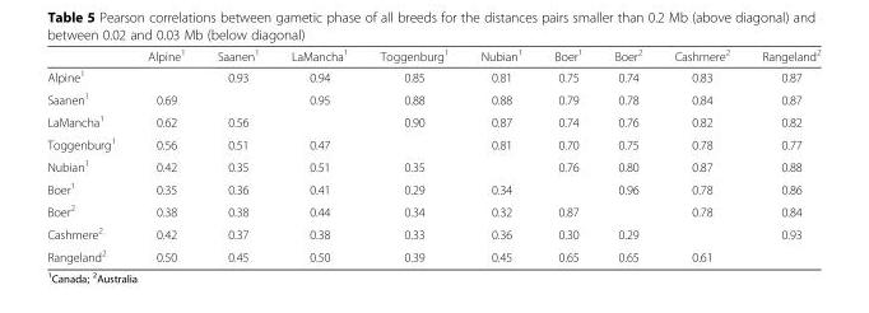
<table><thead><tr><td></td><td>Alpine<sup>1</sup></td><td>Saanen<sup>1</sup></td><td>LaMancha<sup>1</sup></td><td>Toggenburg<sup>1</sup></td><td>Nubian<sup>1</sup></td><td>Boer<sup>1</sup></td><td>Boer<sup>2</sup></td><td>Cashmere<sup>2</sup></td><td>Rangeland<sup>2</sup></td></tr></thead><tbody><tr><td>Alpine<sup>1</sup></td><td></td><td>0.93</td><td>0.94</td><td>0.85</td><td>0.81</td><td>0.75</td><td>0.74</td><td>0.83</td><td>0.87</td></tr><tr><td>Saanen<sup>1</sup></td><td>0.69</td><td></td><td>0.95</td><td>0.88</td><td>0.88</td><td>0.79</td><td>0.78</td><td>0.84</td><td>0.87</td></tr><tr><td>LaMancha<sup>1</sup></td><td>0.62</td><td>0.56</td><td></td><td>0.90</td><td>0.87</td><td>0.74</td><td>0.76</td><td>0.82</td><td>0.82</td></tr><tr><td>Toggenburg<sup>1</sup></td><td>0.56</td><td>0.51</td><td>0.47</td><td></td><td>0.81</td><td>0.70</td><td>0.75</td><td>0.78</td><td>0.77</td></tr><tr><td>Nubian<sup>1</sup></td><td>0.42</td><td>0.35</td><td>0.51</td><td>0.35</td><td></td><td>0.76</td><td>0.80</td><td>0.87</td><td>0.88</td></tr><tr><td>Boer<sup>1</sup></td><td>0.35</td><td>0.36</td><td>0.41</td><td>0.29</td><td>0.34</td><td></td><td>0.96</td><td>0.78</td><td>0.86</td></tr><tr><td>Boer<sup>2</sup></td><td>0.38</td><td>0.38</td><td>0.44</td><td>0.34</td><td>0.32</td><td>0.87</td><td></td><td>0.78</td><td>0.84</td></tr><tr><td>Cashmere<sup>2</sup></td><td>0.42</td><td>0.37</td><td>0.38</td><td>0.33</td><td>0.36</td><td>0.30</td><td>0.29</td><td></td><td>0.93</td></tr><tr><td>Rangeland<sup>2</sup></td><td>0.50</td><td>0.45</td><td>0.50</td><td>0.39</td><td>0.45</td><td>0.65</td><td>0.65</td><td>0.61</td><td></td></tr></tbody></table>